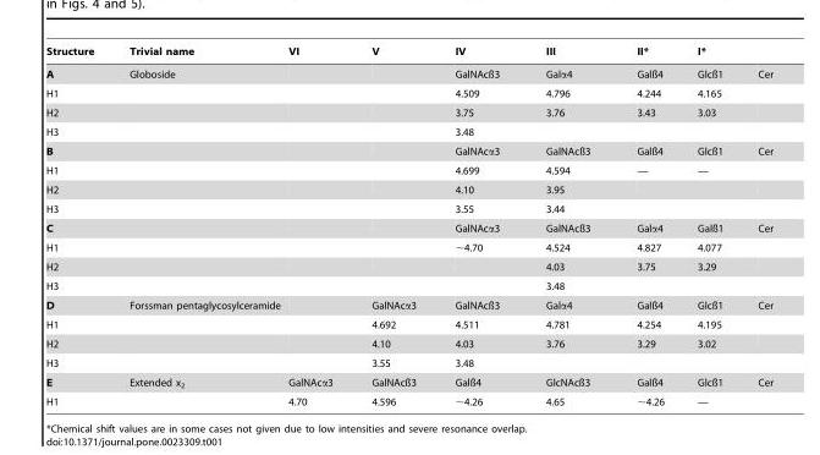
<table><thead><tr><td>Structure</td><td>Trivial name</td><td>VI</td><td>V</td><td>IV</td><td>III</td><td>II*</td><td>I*</td><td></td></tr></thead><tbody><tr><td>A</td><td>Globoside</td><td></td><td></td><td>GalNAcß3</td><td>Galα4</td><td>Galß4</td><td>Glcß1</td><td>Cer</td></tr><tr><td>H1</td><td></td><td></td><td></td><td>4.509</td><td>4.796</td><td>4.244</td><td>4.165</td><td></td></tr><tr><td>H2</td><td></td><td></td><td></td><td>3.75</td><td>3.76</td><td>3.43</td><td>3.03</td><td></td></tr><tr><td>H3</td><td></td><td></td><td></td><td>3.48</td><td></td><td></td><td></td><td></td></tr><tr><td>B</td><td></td><td></td><td></td><td>GalNAcα3</td><td>GalNAcß3</td><td>Galß4</td><td>Glcß1</td><td>Cer</td></tr><tr><td>H1</td><td></td><td></td><td></td><td>4.699</td><td>4.594</td><td>—</td><td>—</td><td></td></tr><tr><td>H2</td><td></td><td></td><td></td><td>4.10</td><td>3.95</td><td></td><td></td><td></td></tr><tr><td>H3</td><td></td><td></td><td></td><td>3.55</td><td>3.44</td><td></td><td></td><td></td></tr><tr><td>C</td><td></td><td></td><td></td><td>GalNAcα3</td><td>GalNAcß3</td><td>Galα4</td><td>Galß1</td><td>Cer</td></tr><tr><td>H1</td><td></td><td></td><td></td><td>∼4.70</td><td>4.524</td><td>4.827</td><td>4.077</td><td></td></tr><tr><td>H2</td><td></td><td></td><td></td><td></td><td>4.03</td><td>3.75</td><td>3.29</td><td></td></tr><tr><td>H3</td><td></td><td></td><td></td><td></td><td>3.48</td><td></td><td></td><td></td></tr><tr><td>D</td><td>Forssman pentaglycosylceramide</td><td></td><td>GalNAcα3</td><td>GalNAcß3</td><td>Galα4</td><td>Galß4</td><td>Glcß1</td><td>Cer</td></tr><tr><td>H1</td><td></td><td></td><td>4.692</td><td>4.511</td><td>4.781</td><td>4.254</td><td>4.195</td><td></td></tr><tr><td>H2</td><td></td><td></td><td>4.10</td><td>4.03</td><td>3.76</td><td>3.29</td><td>3.02</td><td></td></tr><tr><td>H3</td><td></td><td></td><td>3.55</td><td>3.48</td><td></td><td></td><td></td><td></td></tr><tr><td>E</td><td>Extended x<sub>2</sub></td><td>GalNAcα3</td><td>GalNAcß3</td><td>Galß4</td><td>GlcNAcß3</td><td>Galß4</td><td>Glcß1</td><td>Cer</td></tr><tr><td>H1</td><td></td><td>4.70</td><td>4.596</td><td>∼4.26</td><td>4.65</td><td>∼4.26</td><td>—</td><td></td></tr></tbody></table>